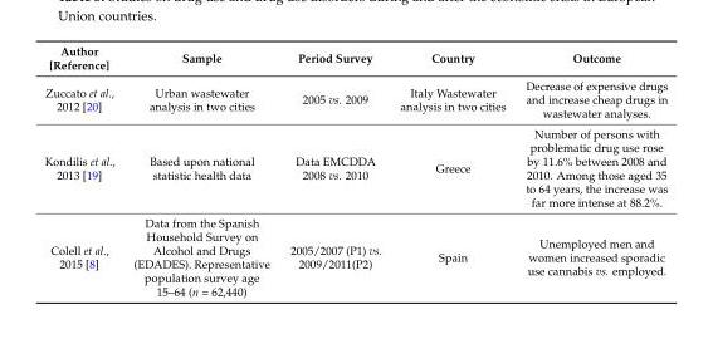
<table><thead><tr><td>Author [Reference]</td><td>Sample</td><td>Period Survey</td><td>Country</td><td>Outcome</td></tr></thead><tbody><tr><td>Zuccato et al., 2012 [20]</td><td>Urban wastewater analysis in two cities</td><td>2005 vs. 2009</td><td>Italy Wastewater analysis in two cities</td><td>Decrease of expensive drugs and increase cheap drugs in wastewater analyses.</td></tr><tr><td>Kondilis et al., 2013 [19]</td><td>Based upon national statistic health data</td><td>Data EMCDDA 2008 vs. 2010</td><td>Greece</td><td>Number of persons with problematic drug use rose by 11.6% between 2008 and 2010. Among those aged 35 to 64 years, the increase was far more intense at 88.2%.</td></tr><tr><td>Colell et al., 2015 [8]</td><td>Data from the Spanish Household Survey on Alcohol and Drugs (EDADES). Representative population survey age 15–64 (n = 62,440)</td><td>2005/2007 (P1) vs. 2009/2011(P2)</td><td>Spain</td><td>Unemployed men and women increased sporadic use cannabis vs. employed.</td></tr></tbody></table>